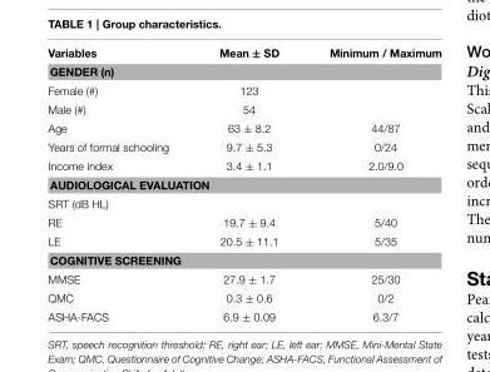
<table><thead><tr><td>Variables</td><td>Mean ± SD</td><td>Minimum / Maximum</td></tr></thead><tbody><tr><td colspan="3">GENDER (n)</td></tr><tr><td>Female (#)</td><td>123</td><td></td></tr><tr><td>Male (#)</td><td>54</td><td></td></tr><tr><td>Age</td><td>63 ± 8.2</td><td>44/87</td></tr><tr><td>Years of formal schooling</td><td>9.7 ± 5.3</td><td>0/24</td></tr><tr><td>Income index</td><td>3.4 ± 1.1</td><td>2.0/9.0</td></tr><tr><td colspan="3">AUDIOLOGICAL EVALUATION</td></tr><tr><td colspan="3">SRT (dB HL)</td></tr><tr><td>RE</td><td>19.7 ± 9.4</td><td>5/40</td></tr><tr><td>LE</td><td>20.5 ± 11.1</td><td>5/35</td></tr><tr><td colspan="3">COGNITIVE SCREENING</td></tr><tr><td>MMSE</td><td>27.9 ± 1.7</td><td>25/30</td></tr><tr><td>QMC</td><td>0.3 ± 0.6</td><td>0/2</td></tr><tr><td>ASHA-FACS</td><td>6.9 ± 0.09</td><td>6.3/7</td></tr></tbody></table>